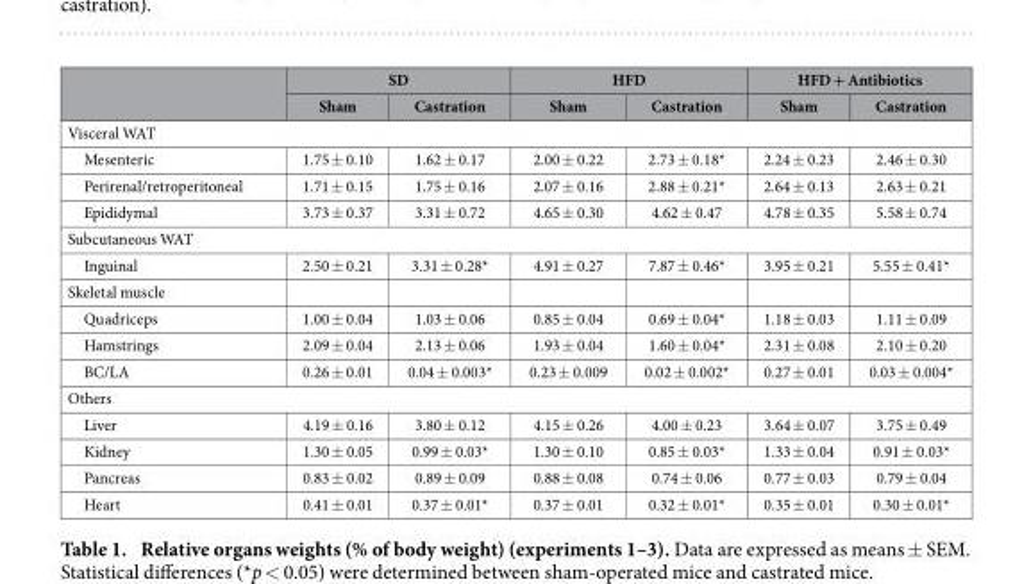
<table><thead><tr><td rowspan="2"></td><td colspan="2">SD</td><td colspan="2">HFD</td><td colspan="2">HFD + Antibiotics</td></tr><tr><td>Sham</td><td>Castration</td><td>Sham</td><td>Castration</td><td>Sham</td><td>Castration</td></tr></thead><tbody><tr><td colspan="7">Visceral WAT</td></tr><tr><td>Mesenteric</td><td>1.75 ± 0.10</td><td>1.62 ± 0.17</td><td>2.00 ± 0.22</td><td>2.73 ± 0.18*</td><td>2.24 ± 0.23</td><td>2.46 ± 0.30</td></tr><tr><td>Perirenal/retroperitoneal</td><td>1.71 ± 0.15</td><td>1.75 ± 0.16</td><td>2.07 ± 0.16</td><td>2.88 ± 0.21*</td><td>2.64 ± 0.13</td><td>2.63 ± 0.21</td></tr><tr><td>Epididymal</td><td>3.73 ± 0.37</td><td>3.31 ± 0.72</td><td>4.65 ± 0.30</td><td>4.62 ± 0.47</td><td>4.78 ± 0.35</td><td>5.58 ± 0.74</td></tr><tr><td colspan="7">Subcutaneous WAT</td></tr><tr><td>Inguinal</td><td>2.50 ± 0.21</td><td>3.31 ± 0.28*</td><td>4.91 ± 0.27</td><td>7.87 ± 0.46*</td><td>3.95 ± 0.21</td><td>5.55 ± 0.41*</td></tr><tr><td colspan="7">Skeletal muscle</td></tr><tr><td>Quadriceps</td><td>1.00 ± 0.04</td><td>1.03 ± 0.06</td><td>0.85 ± 0.04</td><td>0.69 ± 0.04*</td><td>1.18 ± 0.03</td><td>1.11 ± 0.09</td></tr><tr><td>Hamstrings</td><td>2.09 ± 0.04</td><td>2.13 ± 0.06</td><td>1.93 ± 0.04</td><td>1.60 ± 0.04*</td><td>2.31 ± 0.08</td><td>2.10 ± 0.20</td></tr><tr><td>BC/LA</td><td>0.26 ± 0.01</td><td>0.04 ± 0.003*</td><td>0.23 ± 0.009</td><td>0.02 ± 0.002*</td><td>0.27 ± 0.01</td><td>0.03 ± 0.004*</td></tr><tr><td colspan="7">Others</td></tr><tr><td>Liver</td><td>4.19 ± 0.16</td><td>3.80 ± 0.12</td><td>4.15 ± 0.26</td><td>4.00 ± 0.23</td><td>3.64 ± 0.07</td><td>3.75 ± 0.49</td></tr><tr><td>Kidney</td><td>1.30 ± 0.05</td><td>0.99 ± 0.03*</td><td>1.30 ± 0.10</td><td>0.85 ± 0.03*</td><td>1.33 ± 0.04</td><td>0.91 ± 0.03*</td></tr><tr><td>Pancreas</td><td>0.83 ± 0.02</td><td>0.89 ± 0.09</td><td>0.88 ± 0.08</td><td>0.74 ± 0.06</td><td>0.77 ± 0.03</td><td>0.79 ± 0.04</td></tr><tr><td>Heart</td><td>0.41 ± 0.01</td><td>0.37 ± 0.01*</td><td>0.37 ± 0.01</td><td>0.32 ± 0.01*</td><td>0.35 ± 0.01</td><td>0.30 ± 0.01*</td></tr></tbody></table>